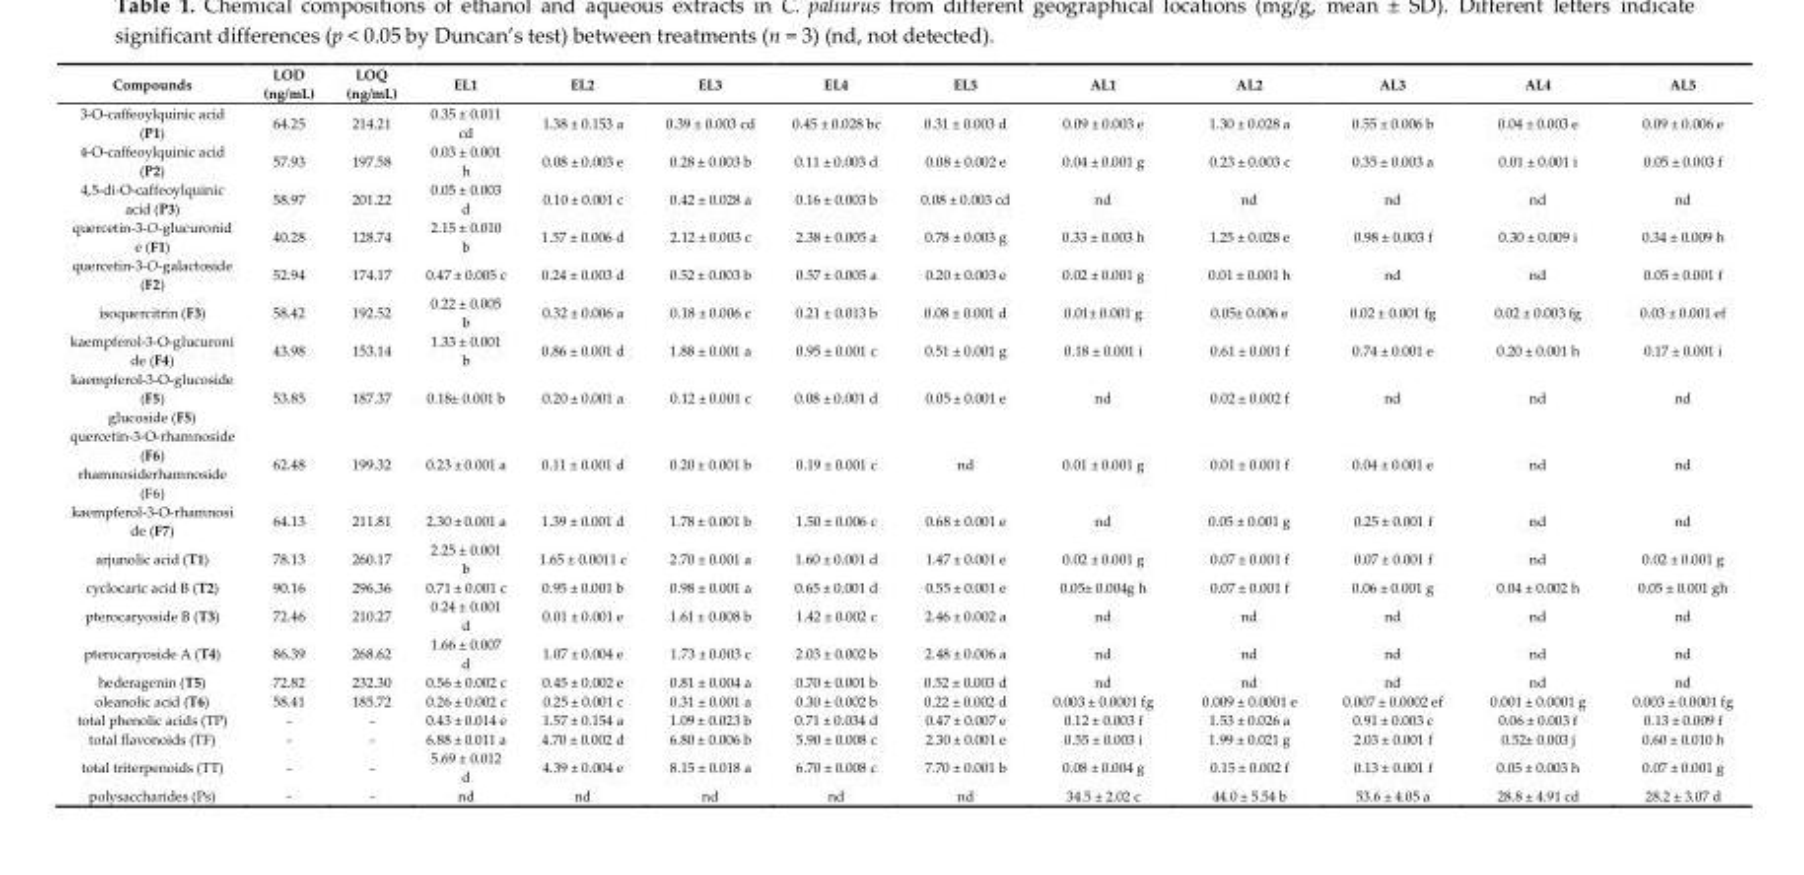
<table><thead><tr><td>Compounds</td><td>LOD (ng/mL)</td><td>LOQ (ng/mL)</td><td>EL1</td><td>EL2</td><td>EL3</td><td>EL4</td><td>EL5</td><td>AL1</td><td>AL2</td><td>AL3</td><td>AL4</td><td>AL5</td></tr></thead><tbody><tr><td>3-O-caffeoylquinic acid (P1)</td><td>64.25</td><td>214.21</td><td>0.35 ± 0.011 cd</td><td>1.38 ± 0.153 a</td><td>0.39 ± 0.003 cd</td><td>0.45 ± 0.028 bc</td><td>0.31 ± 0.003 d</td><td>0.09 ± 0.003 e</td><td>1.30 ± 0.028 a</td><td>0.55 ± 0.006 b</td><td>0.04 ± 0.003 e</td><td>0.09 ± 0.006 e</td></tr><tr><td>4-O-caffeoylquinic acid (P2)</td><td>57.93</td><td>197.58</td><td>0.03 ± 0.001 h</td><td>0.08 ± 0.003 e</td><td>0.28 ± 0.003 b</td><td>0.11 ± 0.003 d</td><td>0.08 ± 0.002 e</td><td>0.04 ± 0.001 g</td><td>0.23 ± 0.003 c</td><td>0.35 ± 0.003 a</td><td>0.01 ± 0.001 i</td><td>0.05 ± 0.003 f</td></tr><tr><td>4,5-di-O-caffeoylquinic acid (P3)</td><td>58.97</td><td>201.22</td><td>0.05 ± 0.003 d</td><td>0.10 ± 0.001 c</td><td>0.42 ± 0.028 a</td><td>0.16 ± 0.003 b</td><td>0.08 ± 0.003 cd</td><td>nd</td><td>nd</td><td>nd</td><td>nd</td><td>nd</td></tr><tr><td>quercetin-3-O-glucuronid e (F1)</td><td>40.28</td><td>128.74</td><td>2.15 ± 0.010 b</td><td>1.57 ± 0.006 d</td><td>2.12 ± 0.003 c</td><td>2.38 ± 0.005 a</td><td>0.78 ± 0.003 g</td><td>0.33 ± 0.003 h</td><td>1.25 ± 0.028 e</td><td>0.98 ± 0.003 f</td><td>0.30 ± 0.009 i</td><td>0.34 ± 0.009 h</td></tr><tr><td>quercetin-3-O-galactoside (F2)</td><td>52.94</td><td>174.17</td><td>0.47 ± 0.005 c</td><td>0.24 ± 0.003 d</td><td>0.52 ± 0.003 b</td><td>0.57 ± 0.005 a</td><td>0.20 ± 0.003 e</td><td>0.02 ± 0.001 g</td><td>0.01 ± 0.001 h</td><td>nd</td><td>nd</td><td>0.05 ± 0.001 f</td></tr><tr><td>isoquercitrin (F3)</td><td>58.42</td><td>192.52</td><td>0.22 ± 0.005 b</td><td>0.32 ± 0.006 a</td><td>0.18 ± 0.006 c</td><td>0.21 ± 0.013 b</td><td>0.08 ± 0.001 d</td><td>0.01± 0.001 g</td><td>0.05± 0.006 e</td><td>0.02 ± 0.001 fg</td><td>0.02 ± 0.003 fg</td><td>0.03 ± 0.001 ef</td></tr><tr><td>kaempferol-3-O-glucuroni de (F4)</td><td>43.98</td><td>153.14</td><td>1.33 ± 0.001 b</td><td>0.86 ± 0.001 d</td><td>1.88 ± 0.001 a</td><td>0.95 ± 0.001 c</td><td>0.51 ± 0.001 g</td><td>0.18 ± 0.001 i</td><td>0.61 ± 0.001 f</td><td>0.74 ± 0.001 e</td><td>0.20 ± 0.001 h</td><td>0.17 ± 0.001 i</td></tr><tr><td>kaempferol-3-O-glucoside (F5) glucoside (F5)</td><td>53.85</td><td>187.37</td><td>0.18± 0.001 b</td><td>0.20 ± 0.001 a</td><td>0.12 ± 0.001 c</td><td>0.08 ± 0.001 d</td><td>0.05 ± 0.001 e</td><td>nd</td><td>0.02 ± 0.002 f</td><td>nd</td><td>nd</td><td>nd</td></tr><tr><td>quercetin-3-O-rhamnoside (F6) rhamnosiderhamnoside (F6)</td><td>62.48</td><td>199.32</td><td>0.23 ± 0.001 a</td><td>0.11 ± 0.001 d</td><td>0.20 ± 0.001 b</td><td>0.19 ± 0.001 c</td><td>nd</td><td>0.01 ± 0.001 g</td><td>0.01 ± 0.001 f</td><td>0.04 ± 0.001 e</td><td>nd</td><td>nd</td></tr><tr><td>kaempferol-3-O-rhamnosi de (F7)</td><td>64.13</td><td>211.81</td><td>2.30 ± 0.001 a</td><td>1.39 ± 0.001 d</td><td>1.78 ± 0.001 b</td><td>1.50 ± 0.006 c</td><td>0.68 ± 0.001 e</td><td>nd</td><td>0.05 ± 0.001 g</td><td>0.25 ± 0.001 f</td><td>nd</td><td>nd</td></tr><tr><td>arjunolic acid (T1)</td><td>78.13</td><td>260.17</td><td>2.25 ± 0.001 b</td><td>1.65 ± 0.0011 c</td><td>2.70 ± 0.001 a</td><td>1.60 ± 0.001 d</td><td>1.47 ± 0.001 e</td><td>0.02 ± 0.001 g</td><td>0.07 ± 0.001 f</td><td>0.07 ± 0.001 f</td><td>nd</td><td>0.02 ± 0.001 g</td></tr><tr><td>cyclocaric acid B (T2)</td><td>90.16</td><td>296.36</td><td>0.71 ± 0.001 c</td><td>0.95 ± 0.001 b</td><td>0.98 ± 0.001 a</td><td>0.65 ± 0.001 d</td><td>0.55 ± 0.001 e</td><td>0.05± 0.004g h</td><td>0.07 ± 0.001 f</td><td>0.06 ± 0.001 g</td><td>0.04 ± 0.002 h</td><td>0.05 ± 0.001 gh</td></tr><tr><td>pterocaryoside B (T3)</td><td>72.46</td><td>210.27</td><td>0.24 ± 0.001 d</td><td>0.01 ± 0.001 e</td><td>1.61 ± 0.008 b</td><td>1.42 ± 0.002 c</td><td>2.46 ± 0.002 a</td><td>nd</td><td>nd</td><td>nd</td><td>nd</td><td>nd</td></tr><tr><td>pterocaryoside A (T4)</td><td>86.39</td><td>268.62</td><td>1.66 ± 0.007 d</td><td>1.07 ± 0.004 e</td><td>1.73 ± 0.003 c</td><td>2.03 ± 0.002 b</td><td>2.48 ± 0.006 a</td><td>nd</td><td>nd</td><td>nd</td><td>nd</td><td>nd</td></tr><tr><td>hederagenin (T5)</td><td>72.82</td><td>232.30</td><td>0.56 ± 0.002 c</td><td>0.45 ± 0.002 e</td><td>0.81 ± 0.004 a</td><td>0.70 ± 0.001 b</td><td>0.52 ± 0.003 d</td><td>nd</td><td>nd</td><td>nd</td><td>nd</td><td>nd</td></tr><tr><td>oleanolic acid (T6)</td><td>58.41</td><td>185.72</td><td>0.26 ± 0.002 c</td><td>0.25 ± 0.001 c</td><td>0.31 ± 0.001 a</td><td>0.30 ± 0.002 b</td><td>0.22 ± 0.002 d</td><td>0.003 ± 0.0001 fg</td><td>0.009 ± 0.0001 e</td><td>0.007 ± 0.0002 ef</td><td>0.001 ± 0.0001 g</td><td>0.003 ± 0.0001 fg</td></tr><tr><td>total phenolic acids (TP)</td><td>-</td><td>-</td><td>0.43 ± 0.014 e</td><td>1.57 ± 0.154 a</td><td>1.09 ± 0.023 b</td><td>0.71 ± 0.034 d</td><td>0.47 ± 0.007 e</td><td>0.12 ± 0.003 f</td><td>1.53 ± 0.026 a</td><td>0.91 ± 0.003 c</td><td>0.06 ± 0.003 f</td><td>0.13 ± 0.009 f</td></tr><tr><td>total flavonoids (TF)</td><td>-</td><td>-</td><td>6.88 ± 0.011 a</td><td>4.70 ± 0.002 d</td><td>6.80 ± 0.006 b</td><td>5.90 ± 0.008 c</td><td>2.30 ± 0.001 e</td><td>0.55 ± 0.003 i</td><td>1.99 ± 0.021 g</td><td>2.03 ± 0.001 f</td><td>0.52± 0.003 j</td><td>0.60 ± 0.010 h</td></tr><tr><td>total triterpenoids (TT)</td><td>-</td><td>-</td><td>5.69 ± 0.012 d</td><td>4.39 ± 0.004 e</td><td>8.15 ± 0.018 a</td><td>6.70 ± 0.008 c</td><td>7.70 ± 0.001 b</td><td>0.08 ± 0.004 g</td><td>0.15 ± 0.002 f</td><td>0.13 ± 0.001 f</td><td>0.05 ± 0.003 h</td><td>0.07 ± 0.001 g</td></tr><tr><td>polysaccharides (Ps)</td><td>-</td><td>-</td><td>nd</td><td>nd</td><td>nd</td><td>nd</td><td>nd</td><td>34.5 ± 2.02 c</td><td>44.0 ± 5.54 b</td><td>53.6 ± 4.05 a</td><td>28.8 ± 4.91 cd</td><td>28.2 ± 3.07 d</td></tr></tbody></table>